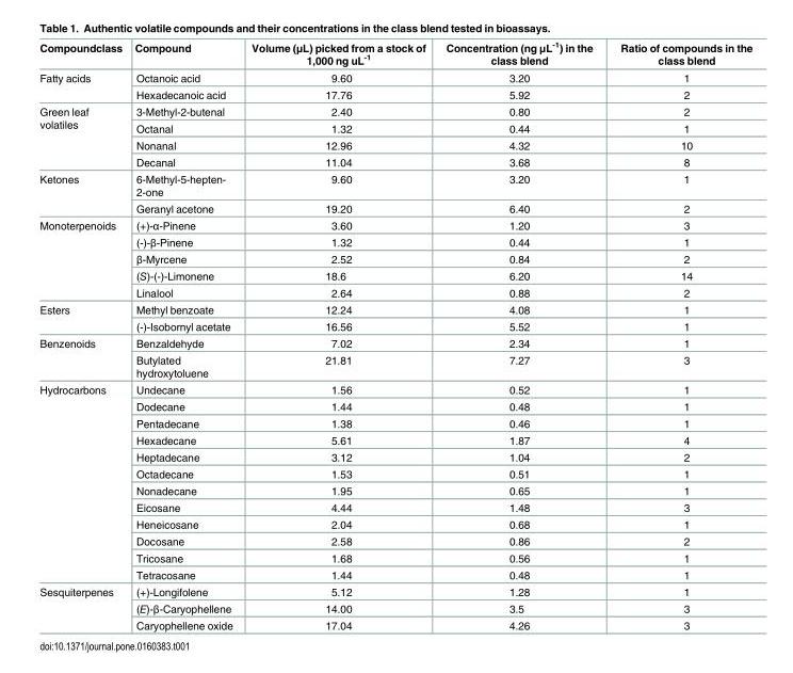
<table><thead><tr><td>Compoundclass</td><td>Compound</td><td>Volume (μL) picked from a stock of 1,000 ng uL<sup>-1</sup></td><td>Concentration (ng μL<sup>-1</sup>) in the class blend</td><td>Ratio of compounds in the class blend</td></tr></thead><tbody><tr><td rowspan="2">Fatty acids</td><td>Octanoic acid</td><td>9.60</td><td>3.20</td><td>1</td></tr><tr><td>Hexadecanoic acid</td><td>17.76</td><td>5.92</td><td>2</td></tr><tr><td rowspan="4">Green leaf volatiles</td><td>3-Methyl-2-butenal</td><td>2.40</td><td>0.80</td><td>2</td></tr><tr><td>Octanal</td><td>1.32</td><td>0.44</td><td>1</td></tr><tr><td>Nonanal</td><td>12.96</td><td>4.32</td><td>10</td></tr><tr><td>Decanal</td><td>11.04</td><td>3.68</td><td>8</td></tr><tr><td rowspan="2">Ketones</td><td>6-Methyl-5-hepten- 2-one</td><td>9.60</td><td>3.20</td><td>1</td></tr><tr><td>Geranyl acetone</td><td>19.20</td><td>6.40</td><td>2</td></tr><tr><td rowspan="5">Monoterpenoids</td><td>(+)-α-Pinene</td><td>3.60</td><td>1.20</td><td>3</td></tr><tr><td>(-)-β-Pinene</td><td>1.32</td><td>0.44</td><td>1</td></tr><tr><td>β-Myrcene</td><td>2.52</td><td>0.84</td><td>2</td></tr><tr><td>(S)-(-)-Limonene</td><td>18.6</td><td>6.20</td><td>14</td></tr><tr><td>Linalool</td><td>2.64</td><td>0.88</td><td>2</td></tr><tr><td rowspan="2">Esters</td><td>Methyl benzoate</td><td>12.24</td><td>4.08</td><td>1</td></tr><tr><td>(-)-Isobornyl acetate</td><td>16.56</td><td>5.52</td><td>1</td></tr><tr><td rowspan="2">Benzenoids</td><td>Benzaldehyde</td><td>7.02</td><td>2.34</td><td>1</td></tr><tr><td>Butylated hydroxytoluene</td><td>21.81</td><td>7.27</td><td>3</td></tr><tr><td rowspan="12">Hydrocarbons</td><td>Undecane</td><td>1.56</td><td>0.52</td><td>1</td></tr><tr><td>Dodecane</td><td>1.44</td><td>0.48</td><td>1</td></tr><tr><td>Pentadecane</td><td>1.38</td><td>0.46</td><td>1</td></tr><tr><td>Hexadecane</td><td>5.61</td><td>1.87</td><td>4</td></tr><tr><td>Heptadecane</td><td>3.12</td><td>1.04</td><td>2</td></tr><tr><td>Octadecane</td><td>1.53</td><td>0.51</td><td>1</td></tr><tr><td>Nonadecane</td><td>1.95</td><td>0.65</td><td>1</td></tr><tr><td>Eicosane</td><td>4.44</td><td>1.48</td><td>3</td></tr><tr><td>Heneicosane</td><td>2.04</td><td>0.68</td><td>1</td></tr><tr><td>Docosane</td><td>2.58</td><td>0.86</td><td>2</td></tr><tr><td>Tricosane</td><td>1.68</td><td>0.56</td><td>1</td></tr><tr><td>Tetracosane</td><td>1.44</td><td>0.48</td><td>1</td></tr><tr><td rowspan="3">Sesquiterpenes</td><td>(+)-Longifolene</td><td>5.12</td><td>1.28</td><td>1</td></tr><tr><td>(E)-β-Caryophellene</td><td>14.00</td><td>3.5</td><td>3</td></tr><tr><td>Caryophellene oxide</td><td>17.04</td><td>4.26</td><td>3</td></tr></tbody></table>